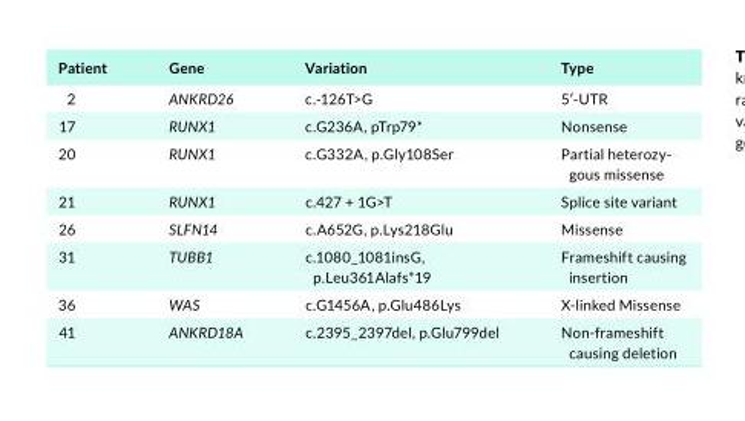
<table><thead><tr><td>Patient</td><td>Gene</td><td>Variation</td><td>Type</td></tr></thead><tbody><tr><td>2</td><td>ANKRD26</td><td>c.- 126T&gt;G</td><td>5′- UTR</td></tr><tr><td>17</td><td>RUNX1</td><td>c.G236A, pTrp79*</td><td>Nonsense</td></tr><tr><td>20</td><td>RUNX1</td><td>c.G332A, p.Gly108Ser</td><td>Partial heterozy- gous missense</td></tr><tr><td>21</td><td>RUNX1</td><td>c.427 + 1G&gt;T</td><td>Splice site variant</td></tr><tr><td>26</td><td>SLFN14</td><td>c.A652G, p.Lys218Glu</td><td>Missense</td></tr><tr><td>31</td><td>TUBB1</td><td>c.1080_1081insG, p.Leu361Alafs*19</td><td>Frameshift causing insertion</td></tr><tr><td>36</td><td>WAS</td><td>c.G1456A, p.Glu486Lys</td><td>X- linked Missense</td></tr><tr><td>41</td><td>ANKRD18A</td><td>c.2395_2397del, p.Glu799del</td><td>Non- frameshift causing deletion</td></tr></tbody></table>